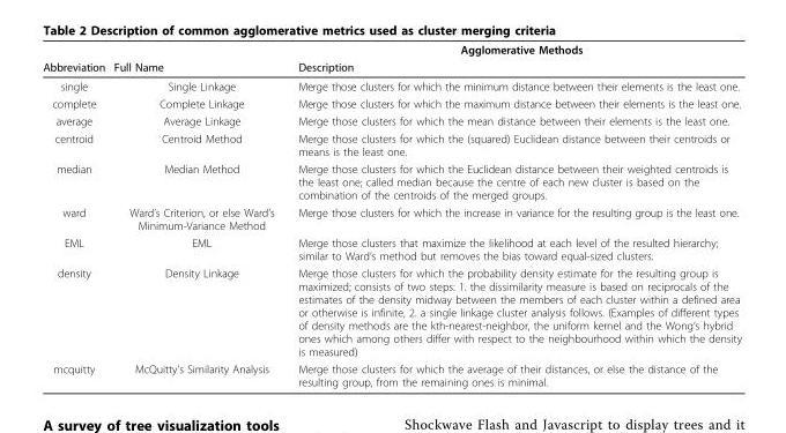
<table><thead><tr><td rowspan="2">Abbreviation</td><td rowspan="2">Full Name</td><td rowspan="2">Agglomerative Methods Description</td></tr><tr></tr></thead><tbody><tr><td>single</td><td>Single Linkage</td><td>Merge those clusters for which the minimum distance between their elements is the least one.</td></tr><tr><td>complete</td><td>Complete Linkage</td><td>Merge those clusters for which the maximum distance between their elements is the least one.</td></tr><tr><td>average</td><td>Average Linkage</td><td>Merge those clusters for which the mean distance between their elements is the least one.</td></tr><tr><td>centroid</td><td>Centroid Method</td><td>Merge those clusters for which the (squared) Euclidean distance between their centroids or means is the least one.</td></tr><tr><td>median</td><td>Median Method</td><td>Merge those clusters for which the Euclidean distance between their weighted centroids is the least one; called median because the centre of each new cluster is based on the combination of the centroids of the merged groups.</td></tr><tr><td>ward</td><td>Ward’s Criterion, or else Ward’s Minimum-Variance Method</td><td>Merge those clusters for which the increase in variance for the resulting group is the least one.</td></tr><tr><td>EML</td><td>EML</td><td>Merge those clusters that maximize the likelihood at each level of the resulted hierarchy; similar to Ward’s method but removes the bias toward equal-sized clusters.</td></tr><tr><td>density</td><td>Density Linkage</td><td>Merge those clusters for which the probability density estimate for the resulting group is maximized; consists of two steps: 1. the dissimilarity measure is based on reciprocals of the estimates of the density midway between the members of each cluster within a defined area or otherwise is infinite, 2. a single linkage cluster analysis follows. (Examples of different types of density methods are the kth-nearest-neighbor, the uniform kernel and the Wong’s hybrid ones which among others differ with respect to the neighbourhood within which the density is measured)</td></tr><tr><td>mcquitty</td><td>McQuitty’s Similarity Analysis</td><td>Merge those clusters for which the average of their distances, or else the distance of the resulting group, from the remaining ones is minimal.</td></tr></tbody></table>